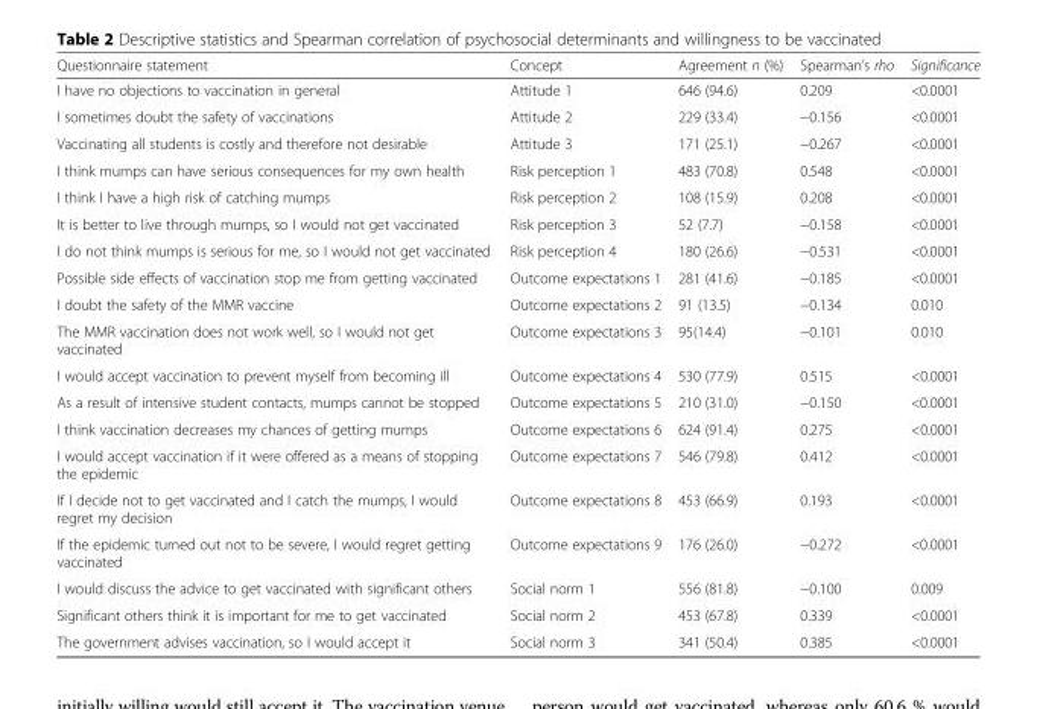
<table><thead><tr><td>Questionnaire statement</td><td>Concept</td><td>Agreement n (%)</td><td>Spearman’s rho</td><td>Significance</td></tr></thead><tbody><tr><td>I have no objections to vaccination in general</td><td>Attitude 1</td><td>646 (94.6)</td><td>0.209</td><td>&lt;0.0001</td></tr><tr><td>I sometimes doubt the safety of vaccinations</td><td>Attitude 2</td><td>229 (33.4)</td><td>−0.156</td><td>&lt;0.0001</td></tr><tr><td>Vaccinating all students is costly and therefore not desirable</td><td>Attitude 3</td><td>171 (25.1)</td><td>−0.267</td><td>&lt;0.0001</td></tr><tr><td>I think mumps can have serious consequences for my own health</td><td>Risk perception 1</td><td>483 (70.8)</td><td>0.548</td><td>&lt;0.0001</td></tr><tr><td>I think I have a high risk of catching mumps</td><td>Risk perception 2</td><td>108 (15.9)</td><td>0.208</td><td>&lt;0.0001</td></tr><tr><td>It is better to live through mumps, so I would not get vaccinated</td><td>Risk perception 3</td><td>52 (7.7)</td><td>−0.158</td><td>&lt;0.0001</td></tr><tr><td>I do not think mumps is serious for me, so I would not get vaccinated</td><td>Risk perception 4</td><td>180 (26.6)</td><td>−0.531</td><td>&lt;0.0001</td></tr><tr><td>Possible side effects of vaccination stop me from getting vaccinated</td><td>Outcome expectations 1</td><td>281 (41.6)</td><td>−0.185</td><td>&lt;0.0001</td></tr><tr><td>I doubt the safety of the MMR vaccine</td><td>Outcome expectations 2</td><td>91 (13.5)</td><td>−0.134</td><td>0.010</td></tr><tr><td>The MMR vaccination does not work well, so I would not get vaccinated</td><td>Outcome expectations 3</td><td>95(14.4)</td><td>−0.101</td><td>0.010</td></tr><tr><td>I would accept vaccination to prevent myself from becoming ill</td><td>Outcome expectations 4</td><td>530 (77.9)</td><td>0.515</td><td>&lt;0.0001</td></tr><tr><td>As a result of intensive student contacts, mumps cannot be stopped</td><td>Outcome expectations 5</td><td>210 (31.0)</td><td>−0.150</td><td>&lt;0.0001</td></tr><tr><td>I think vaccination decreases my chances of getting mumps</td><td>Outcome expectations 6</td><td>624 (91.4)</td><td>0.275</td><td>&lt;0.0001</td></tr><tr><td>I would accept vaccination if it were offered as a means of stopping the epidemic</td><td>Outcome expectations 7</td><td>546 (79.8)</td><td>0.412</td><td>&lt;0.0001</td></tr><tr><td>If I decide not to get vaccinated and I catch the mumps, I would regret my decision</td><td>Outcome expectations 8</td><td>453 (66.9)</td><td>0.193</td><td>&lt;0.0001</td></tr><tr><td>If the epidemic turned out not to be severe, I would regret getting vaccinated</td><td>Outcome expectations 9</td><td>176 (26.0)</td><td>−0.272</td><td>&lt;0.0001</td></tr><tr><td>I would discuss the advice to get vaccinated with significant others</td><td>Social norm 1</td><td>556 (81.8)</td><td>−0.100</td><td>0.009</td></tr><tr><td>Significant others think it is important for me to get vaccinated</td><td>Social norm 2</td><td>453 (67.8)</td><td>0.339</td><td>&lt;0.0001</td></tr><tr><td>The government advises vaccination, so I would accept it</td><td>Social norm 3</td><td>341 (50.4)</td><td>0.385</td><td>&lt;0.0001</td></tr></tbody></table>